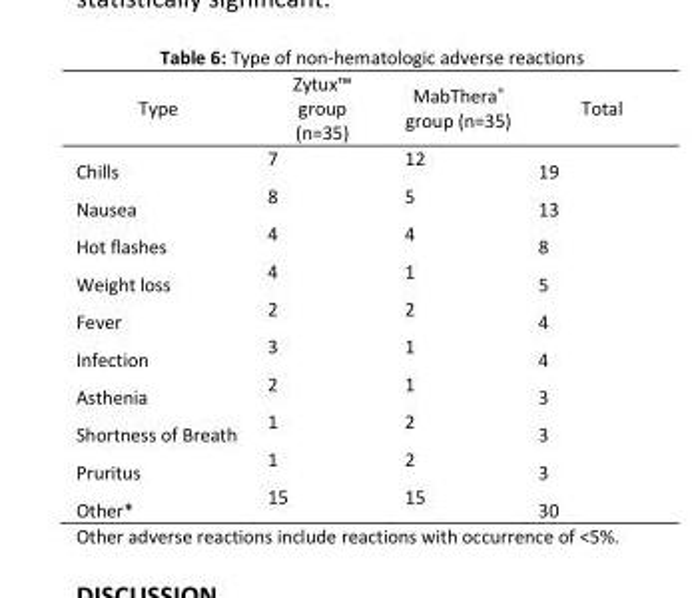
<table><thead><tr><td>Type</td><td>Zytux™ group (n=35)</td><td>MabThera<sup>®</sup> group (n=35)</td><td>Total</td></tr></thead><tbody><tr><td>Chills</td><td>7</td><td>12</td><td>19</td></tr><tr><td>Nausea</td><td>8</td><td>5</td><td>13</td></tr><tr><td>Hot flashes</td><td>4</td><td>4</td><td>8</td></tr><tr><td>Weight loss</td><td>4</td><td>1</td><td>5</td></tr><tr><td>Fever</td><td>2</td><td>2</td><td>4</td></tr><tr><td>Infection</td><td>3</td><td>1</td><td>4</td></tr><tr><td>Asthenia</td><td>2</td><td>1</td><td>3</td></tr><tr><td>Shortness of Breath</td><td>1</td><td>2</td><td>3</td></tr><tr><td>Pruritus</td><td>1</td><td>2</td><td>3</td></tr><tr><td>Other*</td><td>15</td><td>15</td><td>30</td></tr></tbody></table>